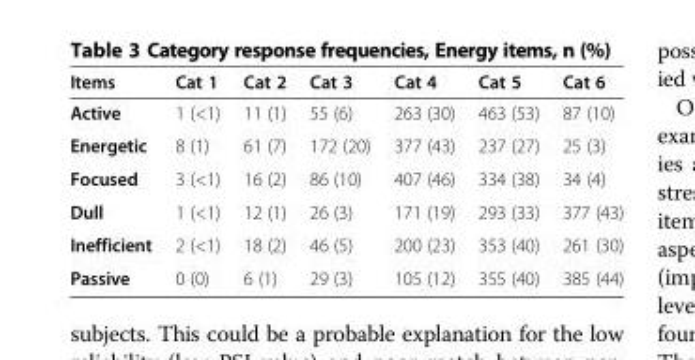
<table><thead><tr><td>Items</td><td>Cat 1</td><td>Cat 2</td><td>Cat 3</td><td>Cat 4</td><td>Cat 5</td><td>Cat 6</td></tr></thead><tbody><tr><td>Active</td><td>1 (&lt;1)</td><td>11 (1)</td><td>55 (6)</td><td>263 (30)</td><td>463 (53)</td><td>87 (10)</td></tr><tr><td>Energetic</td><td>8 (1)</td><td>61 (7)</td><td>172 (20)</td><td>377 (43)</td><td>237 (27)</td><td>25 (3)</td></tr><tr><td>Focused</td><td>3 (&lt;1)</td><td>16 (2)</td><td>86 (10)</td><td>407 (46)</td><td>334 (38)</td><td>34 (4)</td></tr><tr><td>Dull</td><td>1 (&lt;1)</td><td>12 (1)</td><td>26 (3)</td><td>171 (19)</td><td>293 (33)</td><td>377 (43)</td></tr><tr><td>Inefficient</td><td>2 (&lt;1)</td><td>18 (2)</td><td>46 (5)</td><td>200 (23)</td><td>353 (40)</td><td>261 (30)</td></tr><tr><td>Passive</td><td>0 (0)</td><td>6 (1)</td><td>29 (3)</td><td>105 (12)</td><td>355 (40)</td><td>385 (44)</td></tr></tbody></table>